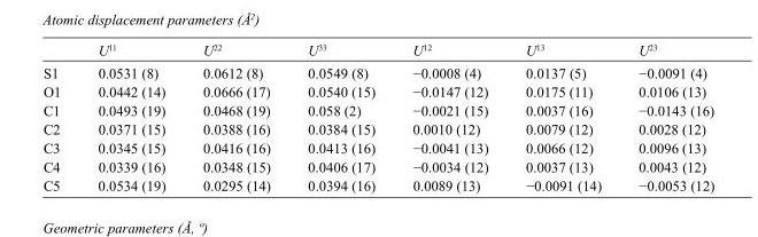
<table><thead><tr><td></td><td>U<sup>11</sup></td><td>U<sup>22</sup></td><td>U<sup>33</sup></td><td>U<sup>12</sup></td><td>U<sup>13</sup></td><td>U<sup>23</sup></td></tr></thead><tbody><tr><td>S1</td><td>0.0531 (8)</td><td>0.0612 (8)</td><td>0.0549 (8)</td><td>−0.0008 (4)</td><td>0.0137 (5)</td><td>−0.0091 (4)</td></tr><tr><td>O1</td><td>0.0442 (14)</td><td>0.0666 (17)</td><td>0.0540 (15)</td><td>−0.0147 (12)</td><td>0.0175 (11)</td><td>0.0106 (13)</td></tr><tr><td>C1</td><td>0.0493 (19)</td><td>0.0468 (19)</td><td>0.058 (2)</td><td>−0.0021 (15)</td><td>0.0037 (16)</td><td>−0.0143 (16)</td></tr><tr><td>C2</td><td>0.0371 (15)</td><td>0.0388 (16)</td><td>0.0384 (15)</td><td>0.0010 (12)</td><td>0.0079 (12)</td><td>0.0028 (12)</td></tr><tr><td>C3</td><td>0.0345 (15)</td><td>0.0416 (16)</td><td>0.0413 (16)</td><td>−0.0041 (13)</td><td>0.0066 (12)</td><td>0.0096 (13)</td></tr><tr><td>C4</td><td>0.0339 (16)</td><td>0.0348 (15)</td><td>0.0406 (17)</td><td>−0.0034 (12)</td><td>0.0037 (13)</td><td>0.0043 (12)</td></tr><tr><td>C5</td><td>0.0534 (19)</td><td>0.0295 (14)</td><td>0.0394 (16)</td><td>0.0089 (13)</td><td>−0.0091 (14)</td><td>−0.0053 (12)</td></tr></tbody></table>